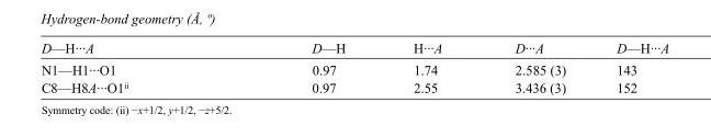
<table><tbody><tr><td>D—H···A</td><td>D—H</td><td>H···A</td><td>D···A</td><td>D—H···A</td></tr><tr><td>N1—H1···O1</td><td>0.97</td><td>1.74</td><td>2.585 (3)</td><td>143</td></tr><tr><td>C8—H8A···O1<sup>ii</sup></td><td>0.97</td><td>2.55</td><td>3.436 (3)</td><td>152</td></tr></tbody></table>